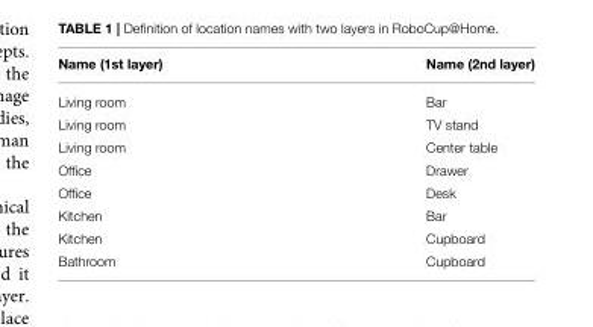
<table><thead><tr><td>Name (1st layer)</td><td>Name (2nd layer)</td></tr></thead><tbody><tr><td>Living room</td><td>Bar</td></tr><tr><td>Living room</td><td>TV stand</td></tr><tr><td>Living room</td><td>Center table</td></tr><tr><td>Office</td><td>Drawer</td></tr><tr><td>Office</td><td>Desk</td></tr><tr><td>Kitchen</td><td>Bar</td></tr><tr><td>Kitchen</td><td>Cupboard</td></tr><tr><td>Bathroom</td><td>Cupboard</td></tr></tbody></table>